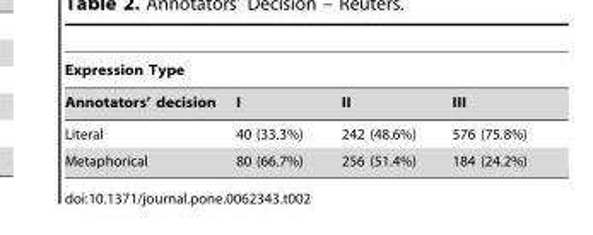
<table><thead><tr><td colspan="4">Expression Type</td></tr><tr><td>Annotators’ decision</td><td>I</td><td>II</td><td>III</td></tr></thead><tbody><tr><td>Literal</td><td>40 (33.3%)</td><td>242 (48.6%)</td><td>576 (75.8%)</td></tr><tr><td>Metaphorical</td><td>80 (66.7%)</td><td>256 (51.4%)</td><td>184 (24.2%)</td></tr></tbody></table>